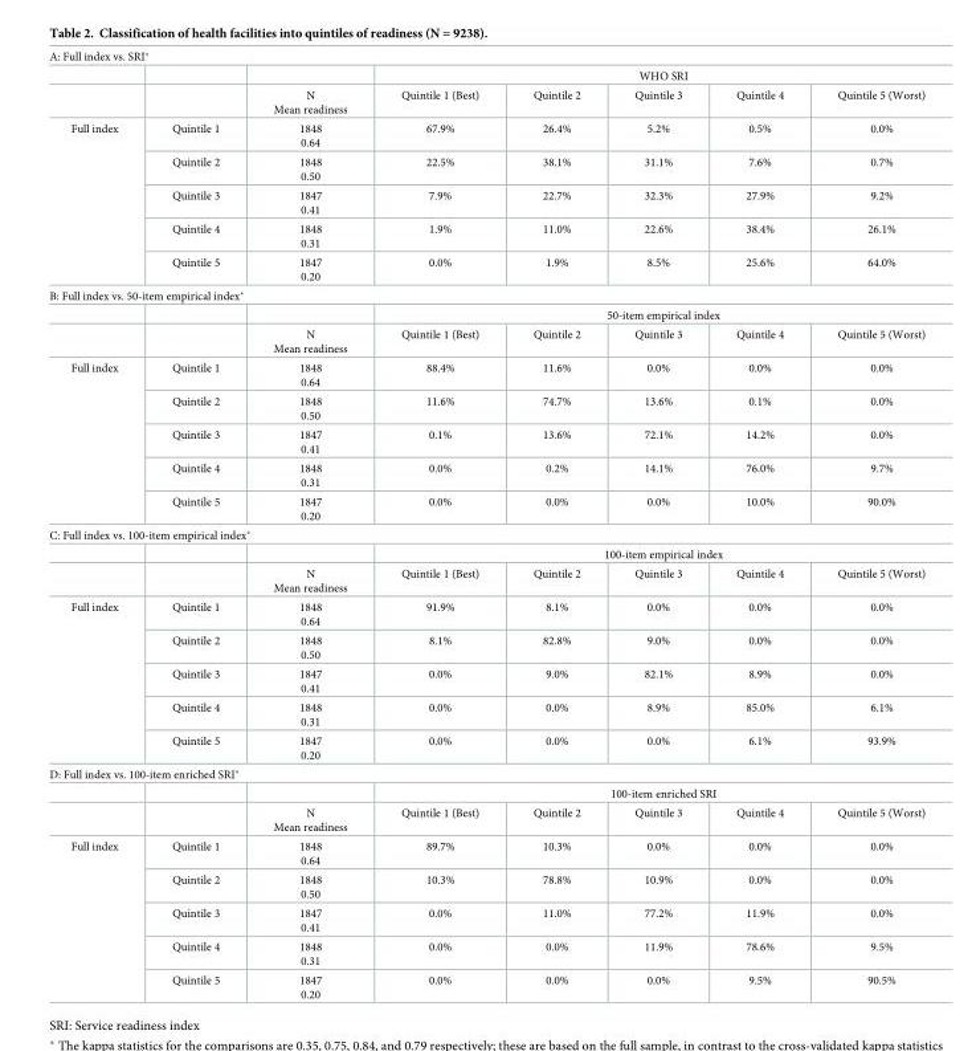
<table><tbody><tr><td colspan="8">A: Full index vs. SRI*</td></tr><tr><td></td><td></td><td></td><td colspan="5">WHO SRI</td></tr><tr><td></td><td></td><td>N Mean readiness</td><td>Quintile 1 (Best)</td><td>Quintile 2</td><td>Quintile 3</td><td>Quintile 4</td><td>Quintile 5 (Worst)</td></tr><tr><td rowspan="5">Full index</td><td>Quintile 1</td><td>1848 0.64</td><td>67.9%</td><td>26.4%</td><td>5.2%</td><td>0.5%</td><td>0.0%</td></tr><tr><td>Quintile 2</td><td>1848 0.50</td><td>22.5%</td><td>38.1%</td><td>31.1%</td><td>7.6%</td><td>0.7%</td></tr><tr><td>Quintile 3</td><td>1847 0.41</td><td>7.9%</td><td>22.7%</td><td>32.3%</td><td>27.9%</td><td>9.2%</td></tr><tr><td>Quintile 4</td><td>1848 0.31</td><td>1.9%</td><td>11.0%</td><td>22.6%</td><td>38.4%</td><td>26.1%</td></tr><tr><td>Quintile 5</td><td>1847 0.20</td><td>0.0%</td><td>1.9%</td><td>8.5%</td><td>25.6%</td><td>64.0%</td></tr><tr><td colspan="8">B: Full index vs. 50-item empirical index*</td></tr><tr><td></td><td></td><td></td><td colspan="5">50-item empirical index</td></tr><tr><td></td><td></td><td>N Mean readiness</td><td>Quintile 1 (Best)</td><td>Quintile 2</td><td>Quintile 3</td><td>Quintile 4</td><td>Quintile 5 (Worst)</td></tr><tr><td rowspan="5">Full index</td><td>Quintile 1</td><td>1848 0.64</td><td>88.4%</td><td>11.6%</td><td>0.0%</td><td>0.0%</td><td>0.0%</td></tr><tr><td>Quintile 2</td><td>1848 0.50</td><td>11.6%</td><td>74.7%</td><td>13.6%</td><td>0.1%</td><td>0.0%</td></tr><tr><td>Quintile 3</td><td>1847 0.41</td><td>0.1%</td><td>13.6%</td><td>72.1%</td><td>14.2%</td><td>0.0%</td></tr><tr><td>Quintile 4</td><td>1848 0.31</td><td>0.0%</td><td>0.2%</td><td>14.1%</td><td>76.0%</td><td>9.7%</td></tr><tr><td>Quintile 5</td><td>1847 0.20</td><td>0.0%</td><td>0.0%</td><td>0.0%</td><td>10.0%</td><td>90.0%</td></tr><tr><td colspan="8">C: Full index vs. 100-item empirical index*</td></tr><tr><td></td><td></td><td></td><td colspan="5">100-item empirical index</td></tr><tr><td></td><td></td><td>N Mean readiness</td><td>Quintile 1 (Best)</td><td>Quintile 2</td><td>Quintile 3</td><td>Quintile 4</td><td>Quintile 5 (Worst)</td></tr><tr><td rowspan="5">Full index</td><td>Quintile 1</td><td>1848 0.64</td><td>91.9%</td><td>8.1%</td><td>0.0%</td><td>0.0%</td><td>0.0%</td></tr><tr><td>Quintile 2</td><td>1848 0.50</td><td>8.1%</td><td>82.8%</td><td>9.0%</td><td>0.0%</td><td>0.0%</td></tr><tr><td>Quintile 3</td><td>1847 0.41</td><td>0.0%</td><td>9.0%</td><td>82.1%</td><td>8.9%</td><td>0.0%</td></tr><tr><td>Quintile 4</td><td>1848 0.31</td><td>0.0%</td><td>0.0%</td><td>8.9%</td><td>85.0%</td><td>6.1%</td></tr><tr><td>Quintile 5</td><td>1847 0.20</td><td>0.0%</td><td>0.0%</td><td>0.0%</td><td>6.1%</td><td>93.9%</td></tr><tr><td colspan="8">D: Full index vs. 100-item enriched SRI*</td></tr><tr><td></td><td></td><td></td><td colspan="5">100-item enriched SRI</td></tr><tr><td></td><td></td><td>N Mean readiness</td><td>Quintile 1 (Best)</td><td>Quintile 2</td><td>Quintile 3</td><td>Quintile 4</td><td>Quintile 5 (Worst)</td></tr><tr><td rowspan="5">Full index</td><td>Quintile 1</td><td>1848 0.64</td><td>89.7%</td><td>10.3%</td><td>0.0%</td><td>0.0%</td><td>0.0%</td></tr><tr><td>Quintile 2</td><td>1848 0.50</td><td>10.3%</td><td>78.8%</td><td>10.9%</td><td>0.0%</td><td>0.0%</td></tr><tr><td>Quintile 3</td><td>1847 0.41</td><td>0.0%</td><td>11.0%</td><td>77.2%</td><td>11.9%</td><td>0.0%</td></tr><tr><td>Quintile 4</td><td>1848 0.31</td><td>0.0%</td><td>0.0%</td><td>11.9%</td><td>78.6%</td><td>9.5%</td></tr><tr><td>Quintile 5</td><td>1847 0.20</td><td>0.0%</td><td>0.0%</td><td>0.0%</td><td>9.5%</td><td>90.5%</td></tr></tbody></table>